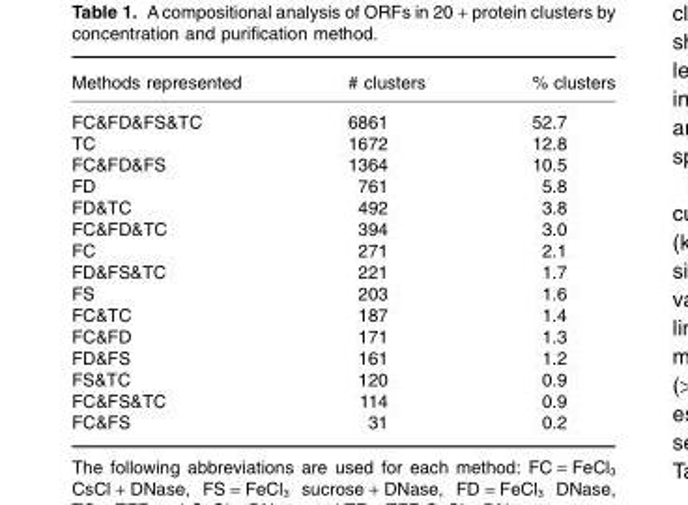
<table><thead><tr><td>Methods represented</td><td># clusters</td><td>% clusters</td></tr></thead><tbody><tr><td>FC&amp;FD&amp;FS&amp;TC</td><td>6861</td><td>52.7</td></tr><tr><td>TC</td><td>1672</td><td>12.8</td></tr><tr><td>FC&amp;FD&amp;FS</td><td>1364</td><td>10.5</td></tr><tr><td>FD</td><td>761</td><td>5.8</td></tr><tr><td>FD&amp;TC</td><td>492</td><td>3.8</td></tr><tr><td>FC&amp;FD&amp;TC</td><td>394</td><td>3.0</td></tr><tr><td>FC</td><td>271</td><td>2.1</td></tr><tr><td>FD&amp;FS&amp;TC</td><td>221</td><td>1.7</td></tr><tr><td>FS</td><td>203</td><td>1.6</td></tr><tr><td>FC&amp;TC</td><td>187</td><td>1.4</td></tr><tr><td>FC&amp;FD</td><td>171</td><td>1.3</td></tr><tr><td>FD&amp;FS</td><td>161</td><td>1.2</td></tr><tr><td>FS&amp;TC</td><td>120</td><td>0.9</td></tr><tr><td>FC&amp;FS&amp;TC</td><td>114</td><td>0.9</td></tr><tr><td>FC&amp;FS</td><td>31</td><td>0.2</td></tr></tbody></table>